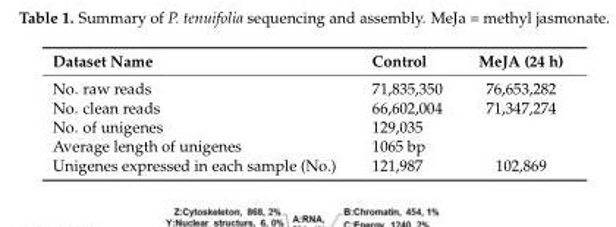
<table><thead><tr><td>Dataset Name</td><td>Control</td><td>MeJA (24 h)</td></tr></thead><tbody><tr><td>No. raw reads</td><td>71,835,350</td><td>76,653,282</td></tr><tr><td>No. clean reads</td><td>66,602,004</td><td>71,347,274</td></tr><tr><td>No. of unigenes</td><td colspan="2">129,035</td></tr><tr><td>Average length of unigenes</td><td colspan="2">1065 bp</td></tr><tr><td>Unigenes expressed in each sample (No.)</td><td>121,987</td><td>102,869</td></tr></tbody></table>